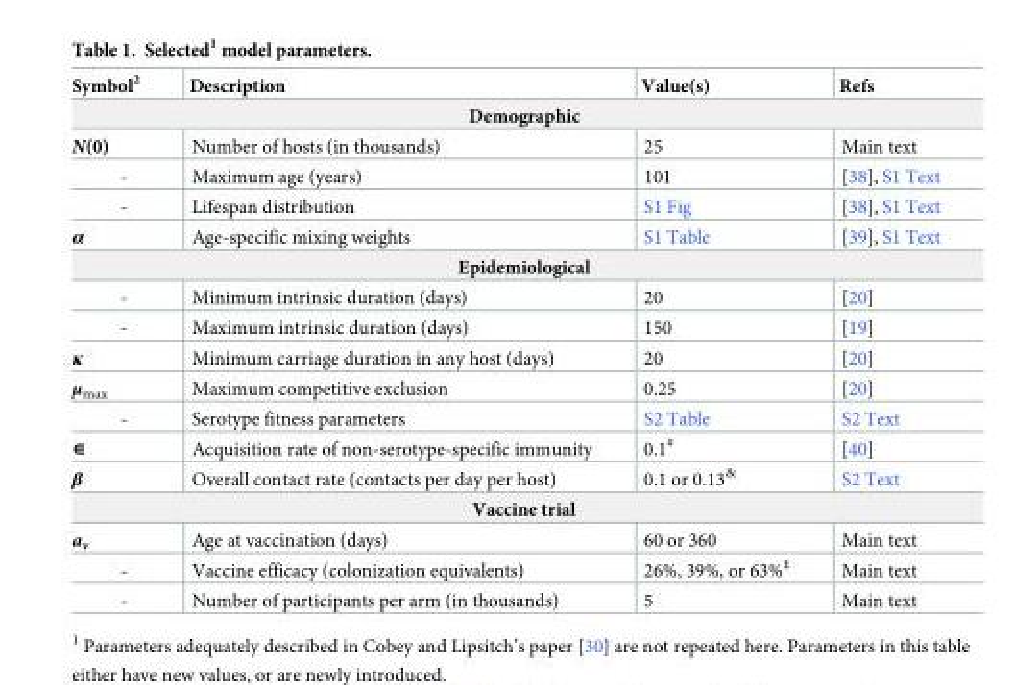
<table><thead><tr><td>Symbol<sup>2</sup></td><td>Description</td><td>Value(s)</td><td>Refs</td></tr></thead><tbody><tr><td colspan="4">Demographic</td></tr><tr><td>N(0)</td><td>Number of hosts (in thousands)</td><td>25</td><td>Main text</td></tr><tr><td>-</td><td>Maximum age (years)</td><td>101</td><td>[38], S1 Text</td></tr><tr><td>-</td><td>Lifespan distribution</td><td>S1 Fig</td><td>[38], S1 Text</td></tr><tr><td>α</td><td>Age-specific mixing weights</td><td>S1 Table</td><td>[39], S1 Text</td></tr><tr><td colspan="4">Epidemiological</td></tr><tr><td>-</td><td>Minimum intrinsic duration (days)</td><td>20</td><td>[20]</td></tr><tr><td>-</td><td>Maximum intrinsic duration (days)</td><td>150</td><td>[19]</td></tr><tr><td>κ</td><td>Minimum carriage duration in any host (days)</td><td>20</td><td>[20]</td></tr><tr><td>μ<sub>max</sub></td><td>Maximum competitive exclusion</td><td>0.25</td><td>[20]</td></tr><tr><td>-</td><td>Serotype fitness parameters</td><td>S2 Table</td><td>S2 Text</td></tr><tr><td>∊</td><td>Acquisition rate of non-serotype-specific immunity</td><td>0.1<sup>#</sup></td><td>[40]</td></tr><tr><td>β</td><td>Overall contact rate (contacts per day per host)</td><td>0.1 or 0.13<sup>&amp;</sup></td><td>S2 Text</td></tr><tr><td colspan="4">Vaccine trial</td></tr><tr><td>a<sub>v</sub></td><td>Age at vaccination (days)</td><td>60 or 360</td><td>Main text</td></tr><tr><td>-</td><td>Vaccine efficacy (colonization equivalents)</td><td>26%, 39%, or 63%<sup>‡</sup></td><td>Main text</td></tr><tr><td>-</td><td>Number of participants per arm (in thousands)</td><td>5</td><td>Main text</td></tr></tbody></table>